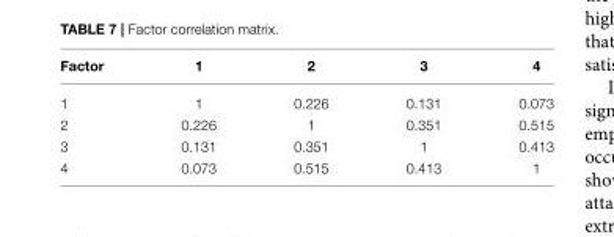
<table><thead><tr><td>Factor</td><td>1</td><td>2</td><td>3</td><td>4</td></tr></thead><tbody><tr><td>1</td><td>1</td><td>0.226</td><td>0.131</td><td>0.073</td></tr><tr><td>2</td><td>0.226</td><td>1</td><td>0.351</td><td>0.515</td></tr><tr><td>3</td><td>0.131</td><td>0.351</td><td>1</td><td>0.413</td></tr><tr><td>4</td><td>0.073</td><td>0.515</td><td>0.413</td><td>1</td></tr></tbody></table>